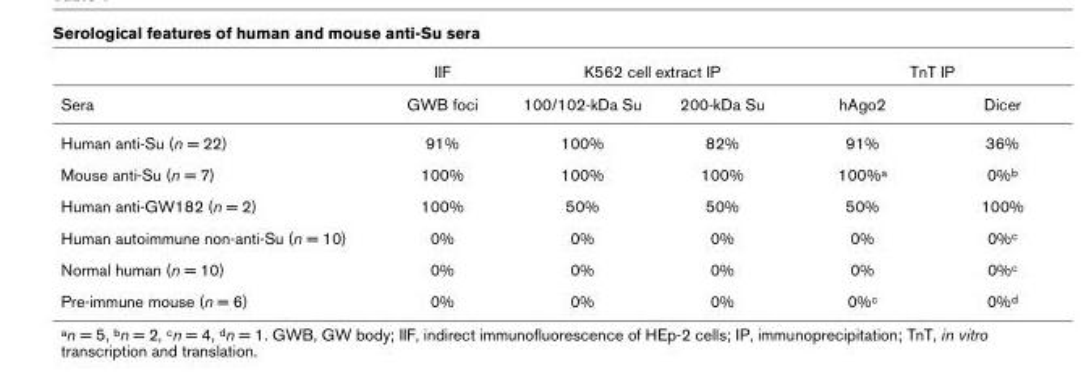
<table><thead><tr><td rowspan="2">Sera</td><td rowspan="2">IIF GWB foci</td><td colspan="2">K562 cell extract IP</td><td colspan="2">TnT IP</td></tr><tr><td>100/102-kDa Su</td><td>200-kDa Su</td><td>hAgo2</td><td>Dicer</td></tr></thead><tbody><tr><td>Human anti-Su (n = 22)</td><td>91%</td><td>100%</td><td>82%</td><td>91%</td><td>36%</td></tr><tr><td>Mouse anti-Su (n = 7)</td><td>100%</td><td>100%</td><td>100%</td><td>100%a</td><td>0%b</td></tr><tr><td>Human anti-GW182 (n = 2)</td><td>100%</td><td>50%</td><td>50%</td><td>50%</td><td>100%</td></tr><tr><td>Human autoimmune non-anti-Su (n = 10)</td><td>0%</td><td>0%</td><td>0%</td><td>0%</td><td>0%c</td></tr><tr><td>Normal human (n = 10)</td><td>0%</td><td>0%</td><td>0%</td><td>0%</td><td>0%c</td></tr><tr><td>Pre-immune mouse (n = 6)</td><td>0%</td><td>0%</td><td>0%</td><td>0%c</td><td>0%d</td></tr></tbody></table>